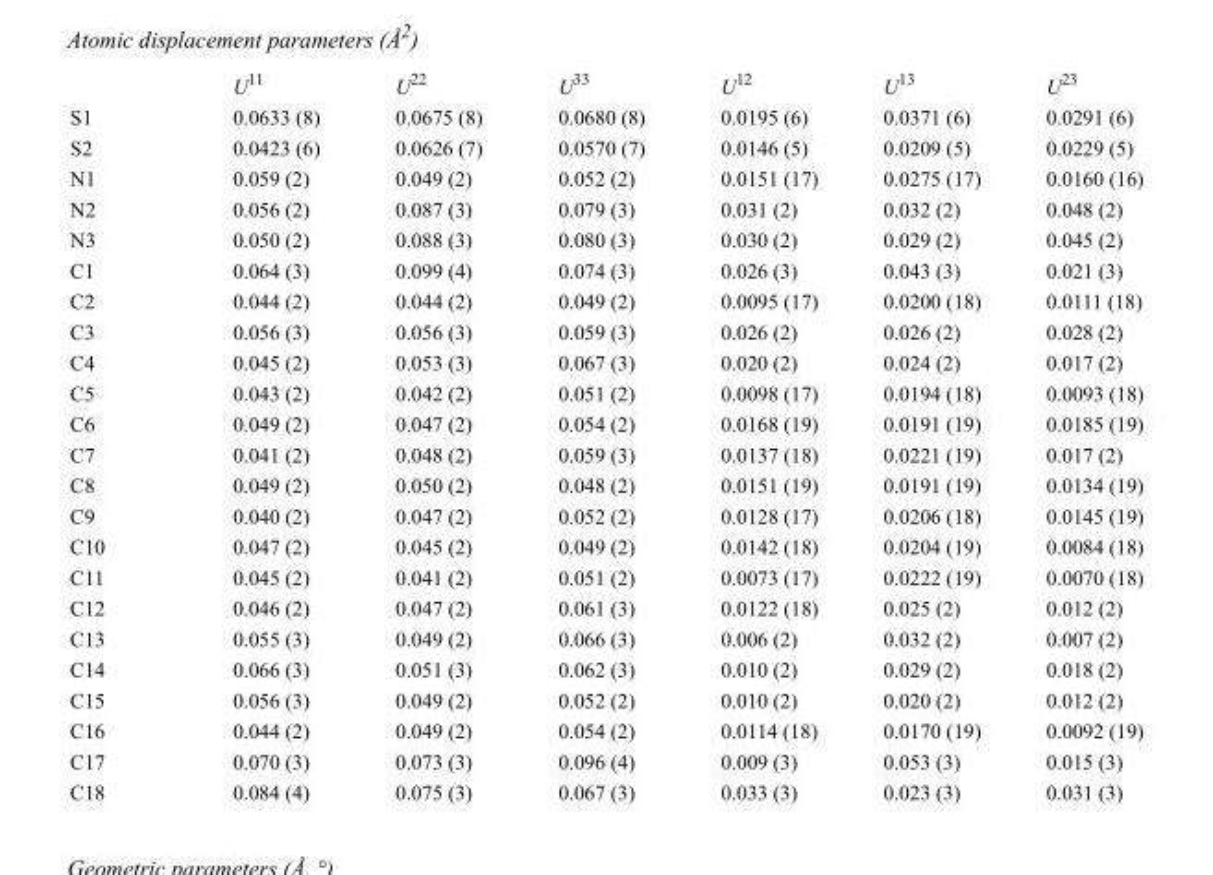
<table><thead><tr><td></td><td>U<sup>11</sup></td><td>U<sup>22</sup></td><td>U<sup>33</sup></td><td>U<sup>12</sup></td><td>U<sup>13</sup></td><td>U<sup>23</sup></td></tr></thead><tbody><tr><td>S1</td><td>0.0633 (8)</td><td>0.0675 (8)</td><td>0.0680 (8)</td><td>0.0195 (6)</td><td>0.0371 (6)</td><td>0.0291 (6)</td></tr><tr><td>S2</td><td>0.0423 (6)</td><td>0.0626 (7)</td><td>0.0570 (7)</td><td>0.0146 (5)</td><td>0.0209 (5)</td><td>0.0229 (5)</td></tr><tr><td>N1</td><td>0.059 (2)</td><td>0.049 (2)</td><td>0.052 (2)</td><td>0.0151 (17)</td><td>0.0275 (17)</td><td>0.0160 (16)</td></tr><tr><td>N2</td><td>0.056 (2)</td><td>0.087 (3)</td><td>0.079 (3)</td><td>0.031 (2)</td><td>0.032 (2)</td><td>0.048 (2)</td></tr><tr><td>N3</td><td>0.050 (2)</td><td>0.088 (3)</td><td>0.080 (3)</td><td>0.030 (2)</td><td>0.029 (2)</td><td>0.045 (2)</td></tr><tr><td>C1</td><td>0.064 (3)</td><td>0.099 (4)</td><td>0.074 (3)</td><td>0.026 (3)</td><td>0.043 (3)</td><td>0.021 (3)</td></tr><tr><td>C2</td><td>0.044 (2)</td><td>0.044 (2)</td><td>0.049 (2)</td><td>0.0095 (17)</td><td>0.0200 (18)</td><td>0.0111 (18)</td></tr><tr><td>C3</td><td>0.056 (3)</td><td>0.056 (3)</td><td>0.059 (3)</td><td>0.026 (2)</td><td>0.026 (2)</td><td>0.028 (2)</td></tr><tr><td>C4</td><td>0.045 (2)</td><td>0.053 (3)</td><td>0.067 (3)</td><td>0.020 (2)</td><td>0.024 (2)</td><td>0.017 (2)</td></tr><tr><td>C5</td><td>0.043 (2)</td><td>0.042 (2)</td><td>0.051 (2)</td><td>0.0098 (17)</td><td>0.0194 (18)</td><td>0.0093 (18)</td></tr><tr><td>C6</td><td>0.049 (2)</td><td>0.047 (2)</td><td>0.054 (2)</td><td>0.0168 (19)</td><td>0.0191 (19)</td><td>0.0185 (19)</td></tr><tr><td>C7</td><td>0.041 (2)</td><td>0.048 (2)</td><td>0.059 (3)</td><td>0.0137 (18)</td><td>0.0221 (19)</td><td>0.017 (2)</td></tr><tr><td>C8</td><td>0.049 (2)</td><td>0.050 (2)</td><td>0.048 (2)</td><td>0.0151 (19)</td><td>0.0191 (19)</td><td>0.0134 (19)</td></tr><tr><td>C9</td><td>0.040 (2)</td><td>0.047 (2)</td><td>0.052 (2)</td><td>0.0128 (17)</td><td>0.0206 (18)</td><td>0.0145 (19)</td></tr><tr><td>C10</td><td>0.047 (2)</td><td>0.045 (2)</td><td>0.049 (2)</td><td>0.0142 (18)</td><td>0.0204 (19)</td><td>0.0084 (18)</td></tr><tr><td>C11</td><td>0.045 (2)</td><td>0.041 (2)</td><td>0.051 (2)</td><td>0.0073 (17)</td><td>0.0222 (19)</td><td>0.0070 (18)</td></tr><tr><td>C12</td><td>0.046 (2)</td><td>0.047 (2)</td><td>0.061 (3)</td><td>0.0122 (18)</td><td>0.025 (2)</td><td>0.012 (2)</td></tr><tr><td>C13</td><td>0.055 (3)</td><td>0.049 (2)</td><td>0.066 (3)</td><td>0.006 (2)</td><td>0.032 (2)</td><td>0.007 (2)</td></tr><tr><td>C14</td><td>0.066 (3)</td><td>0.051 (3)</td><td>0.062 (3)</td><td>0.010 (2)</td><td>0.029 (2)</td><td>0.018 (2)</td></tr><tr><td>C15</td><td>0.056 (3)</td><td>0.049 (2)</td><td>0.052 (2)</td><td>0.010 (2)</td><td>0.020 (2)</td><td>0.012 (2)</td></tr><tr><td>C16</td><td>0.044 (2)</td><td>0.049 (2)</td><td>0.054 (2)</td><td>0.0114 (18)</td><td>0.0170 (19)</td><td>0.0092 (19)</td></tr><tr><td>C17</td><td>0.070 (3)</td><td>0.073 (3)</td><td>0.096 (4)</td><td>0.009 (3)</td><td>0.053 (3)</td><td>0.015 (3)</td></tr><tr><td>C18</td><td>0.084 (4)</td><td>0.075 (3)</td><td>0.067 (3)</td><td>0.033 (3)</td><td>0.023 (3)</td><td>0.031 (3)</td></tr></tbody></table>